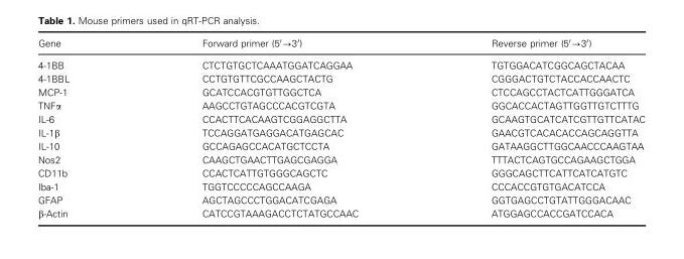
<table><thead><tr><td>Gene</td><td>Forward primer (5′→3′)</td><td>Reverse primer (5′→3′)</td></tr></thead><tbody><tr><td>4-1BB</td><td>CTCTGTGCTCAAATGGATCAGGAA</td><td>TGTGGACATCGGCAGCTACAA</td></tr><tr><td>4-1BBL</td><td>CCTGTGTTCGCCAAGCTACTG</td><td>CGGGACTGTCTACCACCAACTC</td></tr><tr><td>MCP-1</td><td>GCATCCACGTGTTGGCTCA</td><td>CTCCAGCCTACTCATTGGGATCA</td></tr><tr><td>TNFα</td><td>AAGCCTGTAGCCCACGTCGTA</td><td>GGCACCACTAGTTGGTTGTCTTTG</td></tr><tr><td>IL-6</td><td>CCACTTCACAAGTCGGAGGCTTA</td><td>GCAAGTGCATCATCGTTGTTCATAC</td></tr><tr><td>IL-1β</td><td>TCCAGGATGAGGACATGAGCAC</td><td>GAACGTCACACACCAGCAGGTTA</td></tr><tr><td>IL-10</td><td>GCCAGAGCCACATGCTCCTA</td><td>GATAAGGCTTGGCAACCCAAGTAA</td></tr><tr><td>Nos2</td><td>CAAGCTGAACTTGAGCGAGGA</td><td>TTTACTCAGTGCCAGAAGCTGGA</td></tr><tr><td>CD11b</td><td>CCACTCATTGTGGGCAGCTC</td><td>GGGCAGCTTCATTCATCATGTC</td></tr><tr><td>Iba-1</td><td>TGGTCCCCCAGCCAAGA</td><td>CCCACCGTGTGACATCCA</td></tr><tr><td>GFAP</td><td>AGCTAGCCCTGGACATCGAGA</td><td>GGTGAGCCTGTATTGGGACAAC</td></tr><tr><td>β-Actin</td><td>CATCCGTAAAGACCTCTATGCCAAC</td><td>ATGGAGCCACCGATCCACA</td></tr></tbody></table>